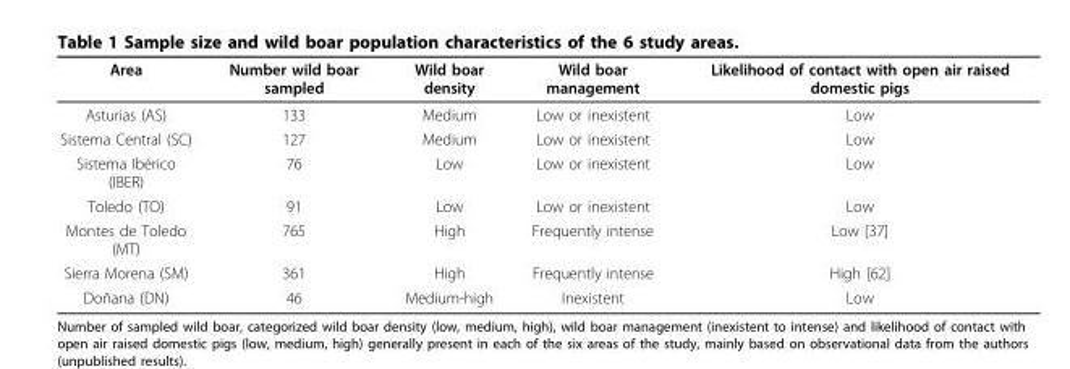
<table><thead><tr><td>Area</td><td>Number wild boar sampled</td><td>Wild boar density</td><td>Wild boar management</td><td>Likelihood of contact with open air raised domestic pigs</td></tr></thead><tbody><tr><td>Asturias (AS)</td><td>133</td><td>Medium</td><td>Low or inexistent</td><td>Low</td></tr><tr><td>Sistema Central (SC)</td><td>127</td><td>Medium</td><td>Low or inexistent</td><td>Low</td></tr><tr><td>Sistema Ibérico (IBER)</td><td>76</td><td>Low</td><td>Low or inexistent</td><td>Low</td></tr><tr><td>Toledo (TO)</td><td>91</td><td>Low</td><td>Low or inexistent</td><td>Low</td></tr><tr><td>Montes de Toledo (MT)</td><td>765</td><td>High</td><td>Frequently intense</td><td>Low [37]</td></tr><tr><td>Sierra Morena (SM)</td><td>361</td><td>High</td><td>Frequently intense</td><td>High [62]</td></tr><tr><td>Doñana (DN)</td><td>46</td><td>Medium-high</td><td>Inexistent</td><td>Low</td></tr></tbody></table>